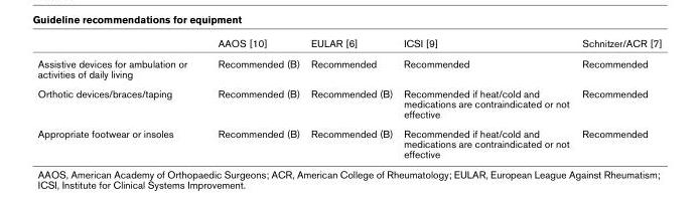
<table><thead><tr><td></td><td>AAOS [10]</td><td>EULAR [6]</td><td>ICSI [9]</td><td>Schnitzer/ACR [7]</td></tr></thead><tbody><tr><td>Assistive devices for ambulation or activities of daily living</td><td>Recommended (B)</td><td>Recommended</td><td>Recommended</td><td>Recommended</td></tr><tr><td>Orthotic devices/braces/taping</td><td>Recommended (B)</td><td>Recommended (B)</td><td>Recommended if heat/cold and medications are contraindicated or not effective</td><td>Recommended</td></tr><tr><td>Appropriate footwear or insoles</td><td>Recommended (B)</td><td>Recommended (B)</td><td>Recommended if heat/cold and medications are contraindicated or not effective</td><td>Recommended</td></tr></tbody></table>